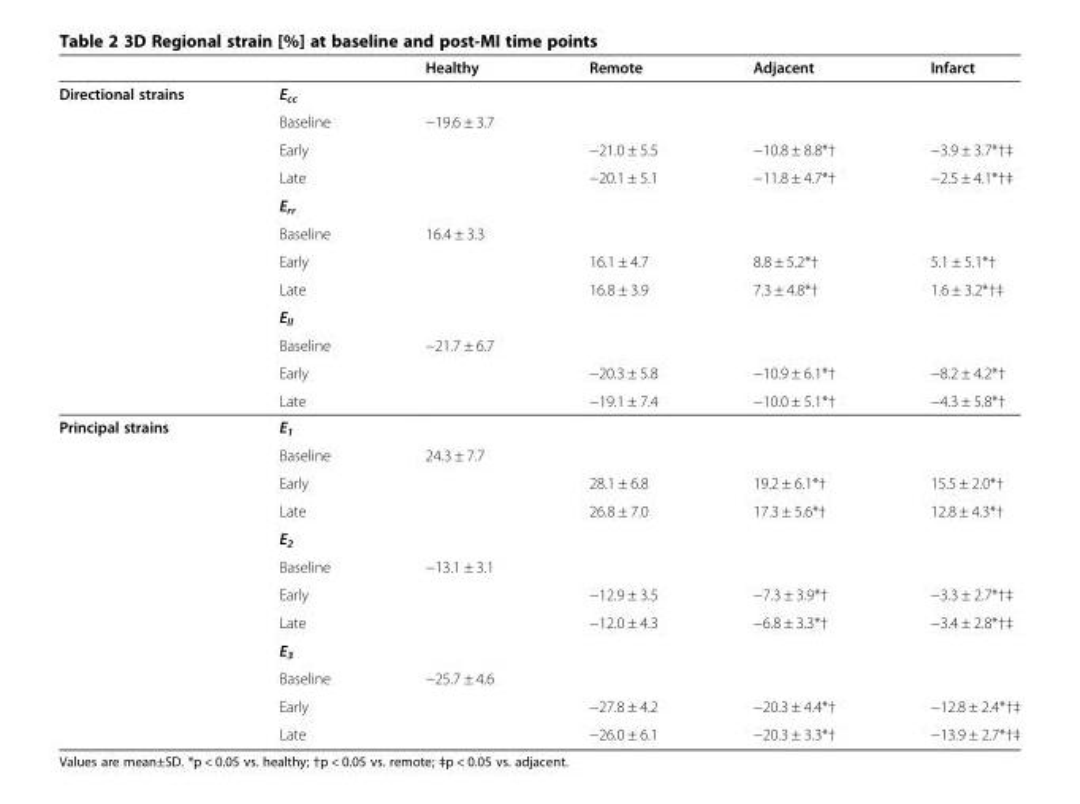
<table><thead><tr><td></td><td></td><td>Healthy</td><td>Remote</td><td>Adjacent</td><td>Infarct</td></tr></thead><tbody><tr><td rowspan="12">Directional strains</td><td colspan="5">E<sub>cc</sub></td></tr><tr><td>Baseline</td><td>−19.6 ± 3.7</td><td></td><td></td><td></td></tr><tr><td>Early</td><td></td><td>−21.0 ± 5.5</td><td>−10.8 ± 8.8*†</td><td>−3.9 ± 3.7*†‡</td></tr><tr><td>Late</td><td></td><td>−20.1 ± 5.1</td><td>−11.8 ± 4.7*†</td><td>−2.5 ± 4.1*†‡</td></tr><tr><td colspan="5">E<sub>rr</sub></td></tr><tr><td>Baseline</td><td>16.4 ± 3.3</td><td></td><td></td><td></td></tr><tr><td>Early</td><td></td><td>16.1 ± 4.7</td><td>8.8 ± 5.2*†</td><td>5.1 ± 5.1*†</td></tr><tr><td>Late</td><td></td><td>16.8 ± 3.9</td><td>7.3 ± 4.8*†</td><td>1.6 ± 3.2*†‡</td></tr><tr><td colspan="5">E<sub>ll</sub></td></tr><tr><td>Baseline</td><td>−21.7 ± 6.7</td><td></td><td></td><td></td></tr><tr><td>Early</td><td></td><td>−20.3 ± 5.8</td><td>−10.9 ± 6.1*†</td><td>−8.2 ± 4.2*†</td></tr><tr><td>Late</td><td></td><td>−19.1 ± 7.4</td><td>−10.0 ± 5.1*†</td><td>−4.3 ± 5.8*†</td></tr><tr><td rowspan="12">Principal strains</td><td colspan="5">E<sub>1</sub></td></tr><tr><td>Baseline</td><td>24.3 ± 7.7</td><td></td><td></td><td></td></tr><tr><td>Early</td><td></td><td>28.1 ± 6.8</td><td>19.2 ± 6.1*†</td><td>15.5 ± 2.0*†</td></tr><tr><td>Late</td><td></td><td>26.8 ± 7.0</td><td>17.3 ± 5.6*†</td><td>12.8 ± 4.3*†</td></tr><tr><td colspan="5">E<sub>2</sub></td></tr><tr><td>Baseline</td><td>−13.1 ± 3.1</td><td></td><td></td><td></td></tr><tr><td>Early</td><td></td><td>−12.9 ± 3.5</td><td>−7.3 ± 3.9*†</td><td>−3.3 ± 2.7*†‡</td></tr><tr><td>Late</td><td></td><td>−12.0 ± 4.3</td><td>−6.8 ± 3.3*†</td><td>−3.4 ± 2.8*†‡</td></tr><tr><td colspan="5">E<sub>3</sub></td></tr><tr><td>Baseline</td><td>−25.7 ± 4.6</td><td></td><td></td><td></td></tr><tr><td>Early</td><td></td><td>−27.8 ± 4.2</td><td>−20.3 ± 4.4*†</td><td>−12.8 ± 2.4*†‡</td></tr><tr><td>Late</td><td></td><td>−26.0 ± 6.1</td><td>−20.3 ± 3.3*†</td><td>−13.9 ± 2.7*†‡</td></tr></tbody></table>